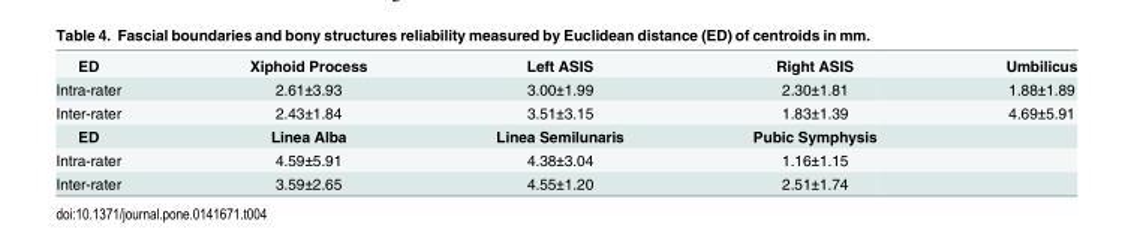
<table><tbody><tr><td>ED</td><td>Xiphoid Process</td><td>Left ASIS</td><td>Right ASIS</td><td>Umbilicus</td></tr><tr><td>Intra-rater</td><td>2.61±3.93</td><td>3.00±1.99</td><td>2.30±1.81</td><td>1.88±1.89</td></tr><tr><td>Inter-rater</td><td>2.43±1.84</td><td>3.51±3.15</td><td>1.83±1.39</td><td>4.69±5.91</td></tr><tr><td>ED</td><td>Linea Alba</td><td>Linea Semilunaris</td><td>Pubic Symphysis</td><td></td></tr><tr><td>Intra-rater</td><td>4.59±5.91</td><td>4.38±3.04</td><td>1.16±1.15</td><td></td></tr><tr><td>Inter-rater</td><td>3.59±2.65</td><td>4.55±1.20</td><td>2.51±1.74</td><td></td></tr></tbody></table>